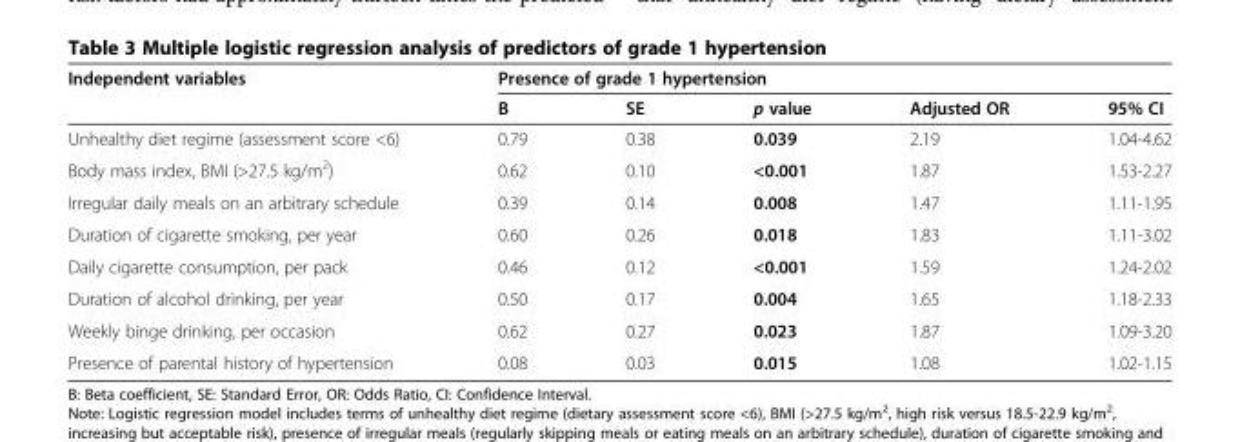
<table><thead><tr><td rowspan="2">Independent variables</td><td colspan="5">Presence of grade 1 hypertension</td></tr><tr><td>B</td><td>SE</td><td>p value</td><td>Adjusted OR</td><td>95% CI</td></tr></thead><tbody><tr><td>Unhealthy diet regime (assessment score &lt;6)</td><td>0.79</td><td>0.38</td><td>0.039</td><td>2.19</td><td>1.04-4.62</td></tr><tr><td>Body mass index, BMI (&gt;27.5 kg/m<sup>2</sup>)</td><td>0.62</td><td>0.10</td><td>&lt;0.001</td><td>1.87</td><td>1.53-2.27</td></tr><tr><td>Irregular daily meals on an arbitrary schedule</td><td>0.39</td><td>0.14</td><td>0.008</td><td>1.47</td><td>1.11-1.95</td></tr><tr><td>Duration of cigarette smoking, per year</td><td>0.60</td><td>0.26</td><td>0.018</td><td>1.83</td><td>1.11-3.02</td></tr><tr><td>Daily cigarette consumption, per pack</td><td>0.46</td><td>0.12</td><td>&lt;0.001</td><td>1.59</td><td>1.24-2.02</td></tr><tr><td>Duration of alcohol drinking, per year</td><td>0.50</td><td>0.17</td><td>0.004</td><td>1.65</td><td>1.18-2.33</td></tr><tr><td>Weekly binge drinking, per occasion</td><td>0.62</td><td>0.27</td><td>0.023</td><td>1.87</td><td>1.09-3.20</td></tr><tr><td>Presence of parental history of hypertension</td><td>0.08</td><td>0.03</td><td>0.015</td><td>1.08</td><td>1.02-1.15</td></tr></tbody></table>